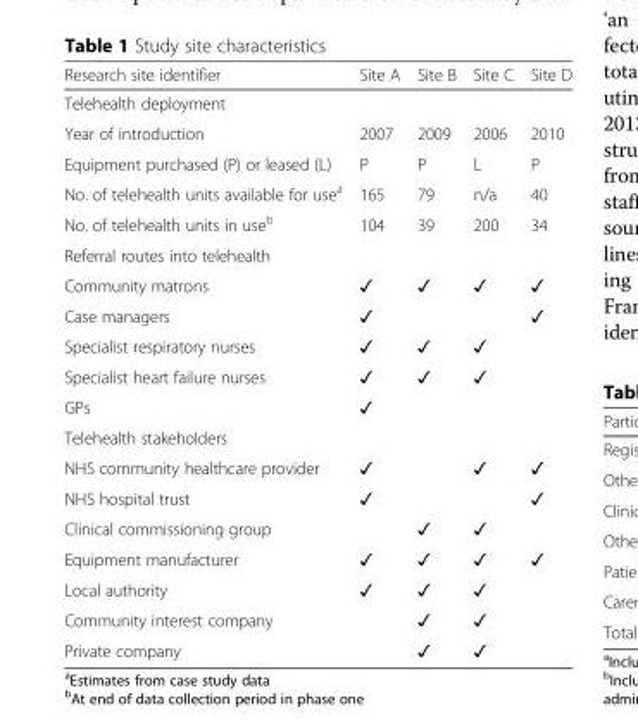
<table><thead><tr><td>Research site identifier</td><td>Site A</td><td>Site B</td><td>Site C</td><td>Site D</td></tr></thead><tbody><tr><td colspan="5">Telehealth deployment</td></tr><tr><td>Year of introduction</td><td>2007</td><td>2009</td><td>2006</td><td>2010</td></tr><tr><td>Equipment purchased (P) or leased (L)</td><td>P</td><td>P</td><td>L</td><td>P</td></tr><tr><td>No. of telehealth units available for use<sup>a</sup></td><td>165</td><td>79</td><td>n/a</td><td>40</td></tr><tr><td>No. of telehealth units in use<sup>b</sup></td><td>104</td><td>39</td><td>200</td><td>34</td></tr><tr><td colspan="5">Referral routes into telehealth</td></tr><tr><td>Community matrons</td><td>✓</td><td>✓</td><td>✓</td><td>✓</td></tr><tr><td>Case managers</td><td>✓</td><td></td><td></td><td>✓</td></tr><tr><td>Specialist respiratory nurses</td><td>✓</td><td>✓</td><td>✓</td><td></td></tr><tr><td>Specialist heart failure nurses</td><td>✓</td><td>✓</td><td>✓</td><td></td></tr><tr><td>GPs</td><td>✓</td><td></td><td></td><td></td></tr><tr><td colspan="5">Telehealth stakeholders</td></tr><tr><td>NHS community healthcare provider</td><td>✓</td><td></td><td>✓</td><td>✓</td></tr><tr><td>NHS hospital trust</td><td>✓</td><td></td><td></td><td>✓</td></tr><tr><td>Clinical commissioning group</td><td></td><td>✓</td><td>✓</td><td></td></tr><tr><td>Equipment manufacturer</td><td>✓</td><td>✓</td><td>✓</td><td>✓</td></tr><tr><td>Local authority</td><td>✓</td><td>✓</td><td>✓</td><td></td></tr><tr><td>Community interest company</td><td></td><td>✓</td><td>✓</td><td></td></tr><tr><td>Private company</td><td></td><td>✓</td><td>✓</td><td></td></tr></tbody></table>